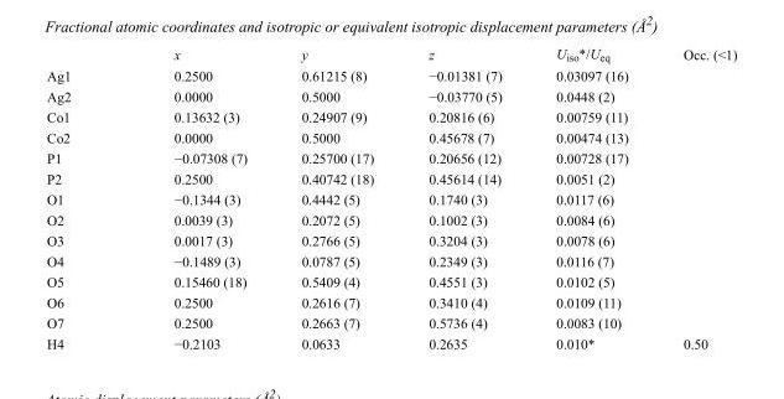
<table><thead><tr><td></td><td>x</td><td>y</td><td>z</td><td>U<sub>iso</sub>*/U<sub>eq</sub></td><td>Occ. (&lt;1)</td></tr></thead><tbody><tr><td>Ag1</td><td>0.2500</td><td>0.61215 (8)</td><td>−0.01381 (7)</td><td>0.03097 (16)</td><td></td></tr><tr><td>Ag2</td><td>0.0000</td><td>0.5000</td><td>−0.03770 (5)</td><td>0.0448 (2)</td><td></td></tr><tr><td>Co1</td><td>0.13632 (3)</td><td>0.24907 (9)</td><td>0.20816 (6)</td><td>0.00759 (11)</td><td></td></tr><tr><td>Co2</td><td>0.0000</td><td>0.5000</td><td>0.45678 (7)</td><td>0.00474 (13)</td><td></td></tr><tr><td>P1</td><td>−0.07308 (7)</td><td>0.25700 (17)</td><td>0.20656 (12)</td><td>0.00728 (17)</td><td></td></tr><tr><td>P2</td><td>0.2500</td><td>0.40742 (18)</td><td>0.45614 (14)</td><td>0.0051 (2)</td><td></td></tr><tr><td>O1</td><td>−0.1344 (3)</td><td>0.4442 (5)</td><td>0.1740 (3)</td><td>0.0117 (6)</td><td></td></tr><tr><td>O2</td><td>0.0039 (3)</td><td>0.2072 (5)</td><td>0.1002 (3)</td><td>0.0084 (6)</td><td></td></tr><tr><td>O3</td><td>0.0017 (3)</td><td>0.2766 (5)</td><td>0.3204 (3)</td><td>0.0078 (6)</td><td></td></tr><tr><td>O4</td><td>−0.1489 (3)</td><td>0.0787 (5)</td><td>0.2349 (3)</td><td>0.0116 (7)</td><td></td></tr><tr><td>O5</td><td>0.15460 (18)</td><td>0.5409 (4)</td><td>0.4551 (3)</td><td>0.0102 (5)</td><td></td></tr><tr><td>O6</td><td>0.2500</td><td>0.2616 (7)</td><td>0.3410 (4)</td><td>0.0109 (11)</td><td></td></tr><tr><td>O7</td><td>0.2500</td><td>0.2663 (7)</td><td>0.5736 (4)</td><td>0.0083 (10)</td><td></td></tr><tr><td>H4</td><td>−0.2103</td><td>0.0633</td><td>0.2635</td><td>0.010*</td><td>0.50</td></tr></tbody></table>